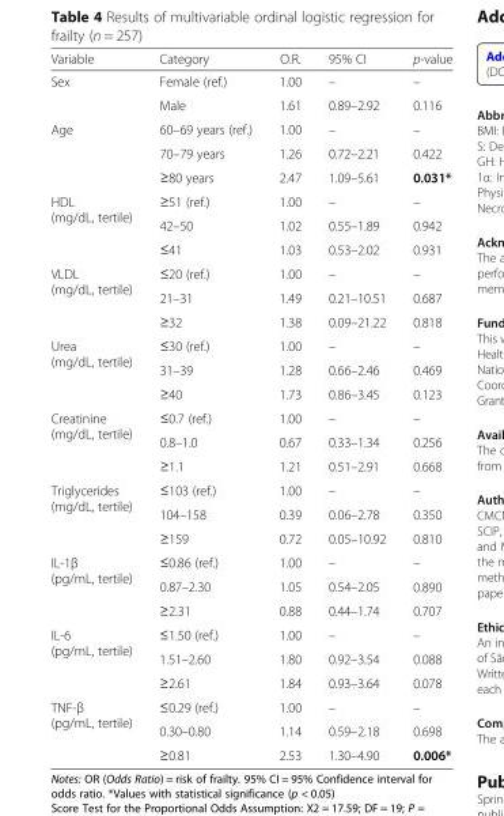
<table><thead><tr><td>Variable</td><td>Category</td><td>O.R.</td><td>95% CI</td><td>p-value</td></tr></thead><tbody><tr><td rowspan="2">Sex</td><td>Female (ref.)</td><td>1.00</td><td>–</td><td>–</td></tr><tr><td>Male</td><td>1.61</td><td>0.89–2.92</td><td>0.116</td></tr><tr><td rowspan="3">Age</td><td>60–69 years (ref.)</td><td>1.00</td><td>–</td><td>–</td></tr><tr><td>70–79 years</td><td>1.26</td><td>0.72–2.21</td><td>0.422</td></tr><tr><td>≥80 years</td><td>2.47</td><td>1.09–5.61</td><td>0.031*</td></tr><tr><td rowspan="3">HDL (mg/dL, tertile)</td><td>≥51 (ref.)</td><td>1.00</td><td>–</td><td>–</td></tr><tr><td>42–50</td><td>1.02</td><td>0.55–1.89</td><td>0.942</td></tr><tr><td>≤41</td><td>1.03</td><td>0.53–2.02</td><td>0.931</td></tr><tr><td rowspan="3">VLDL (mg/dL, tertile)</td><td>≤20 (ref.)</td><td>1.00</td><td>–</td><td>–</td></tr><tr><td>21–31</td><td>1.49</td><td>0.21–10.51</td><td>0.687</td></tr><tr><td>≥32</td><td>1.38</td><td>0.09–21.22</td><td>0.818</td></tr><tr><td rowspan="3">Urea (mg/dL, tertile)</td><td>≤30 (ref.)</td><td>1.00</td><td>–</td><td>–</td></tr><tr><td>31–39</td><td>1.28</td><td>0.66–2.46</td><td>0.469</td></tr><tr><td>≥40</td><td>1.73</td><td>0.86–3.45</td><td>0.123</td></tr><tr><td rowspan="3">Creatinine (mg/dL, tertile)</td><td>≤0.7 (ref.)</td><td>1.00</td><td>–</td><td>–</td></tr><tr><td>0.8–1.0</td><td>0.67</td><td>0.33–1.34</td><td>0.256</td></tr><tr><td>≥1.1</td><td>1.21</td><td>0.51–2.91</td><td>0.668</td></tr><tr><td rowspan="3">Triglycerides (mg/dL, tertile)</td><td>≤103 (ref.)</td><td>1.00</td><td>–</td><td>–</td></tr><tr><td>104–158</td><td>0.39</td><td>0.06–2.78</td><td>0.350</td></tr><tr><td>≥159</td><td>0.72</td><td>0.05–10.92</td><td>0.810</td></tr><tr><td rowspan="3">IL-1β (pg/mL, tertile)</td><td>≤0.86 (ref.)</td><td>1.00</td><td>–</td><td>–</td></tr><tr><td>0.87–2.30</td><td>1.05</td><td>0.54–2.05</td><td>0.890</td></tr><tr><td>≥2.31</td><td>0.88</td><td>0.44–1.74</td><td>0.707</td></tr><tr><td rowspan="3">IL-6 (pg/mL, tertile)</td><td>≤1.50 (ref.)</td><td>1.00</td><td>–</td><td>–</td></tr><tr><td>1.51–2.60</td><td>1.80</td><td>0.92–3.54</td><td>0.088</td></tr><tr><td>≥2.61</td><td>1.84</td><td>0.93–3.64</td><td>0.078</td></tr><tr><td rowspan="3">TNF-β (pg/mL, tertile)</td><td>≤0.29 (ref.)</td><td>1.00</td><td>–</td><td>–</td></tr><tr><td>0.30–0.80</td><td>1.14</td><td>0.59–2.18</td><td>0.698</td></tr><tr><td>≥0.81</td><td>2.53</td><td>1.30–4.90</td><td>0.006*</td></tr></tbody></table>